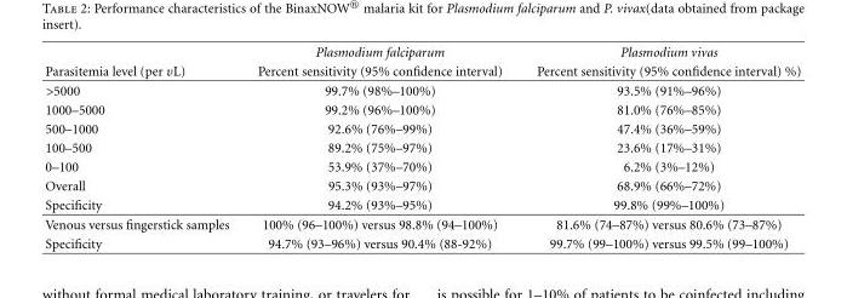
<table><thead><tr><td></td><td>Plasmodium falciparum</td><td>Plasmodium vivas</td></tr></thead><tbody><tr><td>Parasitemia level (per υL)</td><td>Percent sensitivity (95% confidence interval)</td><td>Percent sensitivity (95% confidence interval) %)</td></tr><tr><td>&gt;5000</td><td>99.7% (98%–100%)</td><td>93.5% (91%–96%)</td></tr><tr><td>1000–5000</td><td>99.2% (96%–100%)</td><td>81.0% (76%–85%)</td></tr><tr><td>500–1000</td><td>92.6% (76%–99%)</td><td>47.4% (36%–59%)</td></tr><tr><td>100–500</td><td>89.2% (75%–97%)</td><td>23.6% (17%–31%)</td></tr><tr><td>0–100</td><td>53.9% (37%–70%)</td><td>6.2% (3%–12%)</td></tr><tr><td>Overall</td><td>95.3% (93%–97%)</td><td>68.9% (66%–72%)</td></tr><tr><td>Specificity</td><td>94.2% (93%–95%)</td><td>99.8% (99%–100%)</td></tr><tr><td>Venous versus fingerstick samples</td><td>100% (96–100%) versus 98.8% (94–100%)</td><td>81.6% (74–87%) versus 80.6% (73–87%)</td></tr><tr><td>Specificity</td><td>94.7% (93–96%) versus 90.4% (88-92%)</td><td>99.7% (99–100%) versus 99.5% (99–100%)</td></tr></tbody></table>